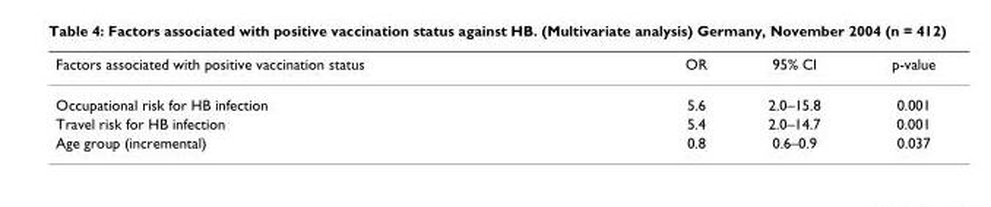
<table><thead><tr><td>Factors associated with positive vaccination status</td><td>OR</td><td>95% CI</td><td>p-value</td></tr></thead><tbody><tr><td>Occupational risk for HB infection</td><td>5.6</td><td>2.0–15.8</td><td>0.001</td></tr><tr><td>Travel risk for HB infection</td><td>5.4</td><td>2.0–14.7</td><td>0.001</td></tr><tr><td>Age group (incremental)</td><td>0.8</td><td>0.6–0.9</td><td>0.037</td></tr></tbody></table>